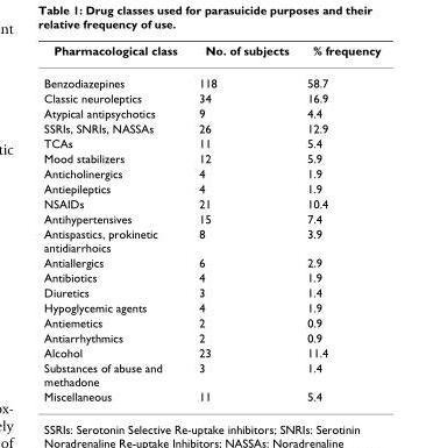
<table><thead><tr><td>Pharmacological class</td><td>No. of subjects</td><td>% frequency</td></tr></thead><tbody><tr><td>Benzodiazepines</td><td>118</td><td>58.7</td></tr><tr><td>Classic neuroleptics</td><td>34</td><td>16.9</td></tr><tr><td>Atypical antipsychotics</td><td>9</td><td>4.4</td></tr><tr><td>SSRIs, SNRIs, NASSAs</td><td>26</td><td>12.9</td></tr><tr><td>TCAs</td><td>11</td><td>5.4</td></tr><tr><td>Mood stabilizers</td><td>12</td><td>5.9</td></tr><tr><td>Anticholinergics</td><td>4</td><td>1.9</td></tr><tr><td>Antiepileptics</td><td>4</td><td>1.9</td></tr><tr><td>NSAIDs</td><td>21</td><td>10.4</td></tr><tr><td>Antihypertensives</td><td>15</td><td>7.4</td></tr><tr><td>Antispastics, prokinetic antidiarrhoics</td><td>8</td><td>3.9</td></tr><tr><td>Antiallergics</td><td>6</td><td>2.9</td></tr><tr><td>Antibiotics</td><td>4</td><td>1.9</td></tr><tr><td>Diuretics</td><td>3</td><td>1.4</td></tr><tr><td>Hypoglycemic agents</td><td>4</td><td>1.9</td></tr><tr><td>Antiemetics</td><td>2</td><td>0.9</td></tr><tr><td>Antiarrhythmics</td><td>2</td><td>0.9</td></tr><tr><td>Alcohol</td><td>23</td><td>11.4</td></tr><tr><td>Substances of abuse and methadone</td><td>3</td><td>1.4</td></tr><tr><td>Miscellaneous</td><td>11</td><td>5.4</td></tr></tbody></table>